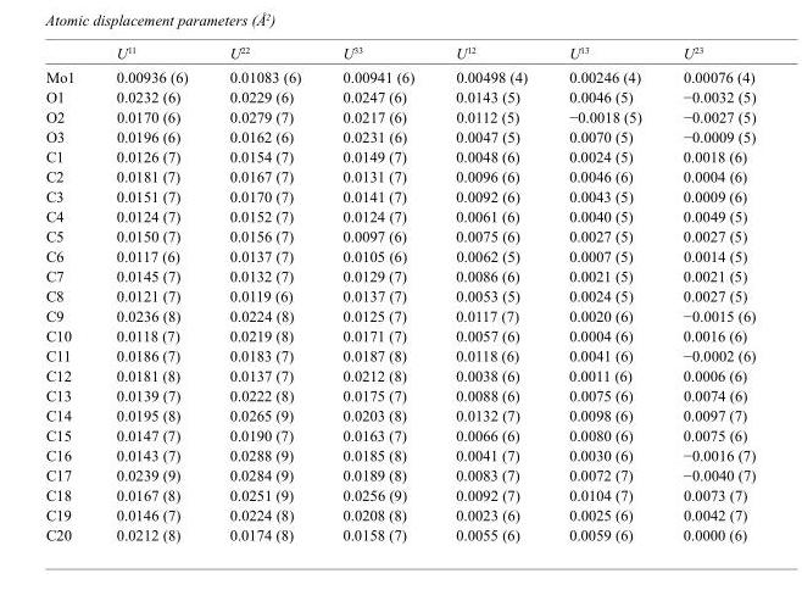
<table><thead><tr><td></td><td>U<sup>11</sup></td><td>U<sup>22</sup></td><td>U<sup>33</sup></td><td>U<sup>12</sup></td><td>U<sup>13</sup></td><td>U<sup>23</sup></td></tr></thead><tbody><tr><td>Mo1</td><td>0.00936 (6)</td><td>0.01083 (6)</td><td>0.00941 (6)</td><td>0.00498 (4)</td><td>0.00246 (4)</td><td>0.00076 (4)</td></tr><tr><td>O1</td><td>0.0232 (6)</td><td>0.0229 (6)</td><td>0.0247 (6)</td><td>0.0143 (5)</td><td>0.0046 (5)</td><td>−0.0032 (5)</td></tr><tr><td>O2</td><td>0.0170 (6)</td><td>0.0279 (7)</td><td>0.0217 (6)</td><td>0.0112 (5)</td><td>−0.0018 (5)</td><td>−0.0027 (5)</td></tr><tr><td>O3</td><td>0.0196 (6)</td><td>0.0162 (6)</td><td>0.0231 (6)</td><td>0.0047 (5)</td><td>0.0070 (5)</td><td>−0.0009 (5)</td></tr><tr><td>C1</td><td>0.0126 (7)</td><td>0.0154 (7)</td><td>0.0149 (7)</td><td>0.0048 (6)</td><td>0.0024 (5)</td><td>0.0018 (6)</td></tr><tr><td>C2</td><td>0.0181 (7)</td><td>0.0167 (7)</td><td>0.0131 (7)</td><td>0.0096 (6)</td><td>0.0046 (6)</td><td>0.0004 (6)</td></tr><tr><td>C3</td><td>0.0151 (7)</td><td>0.0170 (7)</td><td>0.0141 (7)</td><td>0.0092 (6)</td><td>0.0043 (5)</td><td>0.0009 (6)</td></tr><tr><td>C4</td><td>0.0124 (7)</td><td>0.0152 (7)</td><td>0.0124 (7)</td><td>0.0061 (6)</td><td>0.0040 (5)</td><td>0.0049 (5)</td></tr><tr><td>C5</td><td>0.0150 (7)</td><td>0.0156 (7)</td><td>0.0097 (6)</td><td>0.0075 (6)</td><td>0.0027 (5)</td><td>0.0027 (5)</td></tr><tr><td>C6</td><td>0.0117 (6)</td><td>0.0137 (7)</td><td>0.0105 (6)</td><td>0.0062 (5)</td><td>0.0007 (5)</td><td>0.0014 (5)</td></tr><tr><td>C7</td><td>0.0145 (7)</td><td>0.0132 (7)</td><td>0.0129 (7)</td><td>0.0086 (6)</td><td>0.0021 (5)</td><td>0.0021 (5)</td></tr><tr><td>C8</td><td>0.0121 (7)</td><td>0.0119 (6)</td><td>0.0137 (7)</td><td>0.0053 (5)</td><td>0.0024 (5)</td><td>0.0027 (5)</td></tr><tr><td>C9</td><td>0.0236 (8)</td><td>0.0224 (8)</td><td>0.0125 (7)</td><td>0.0117 (7)</td><td>0.0020 (6)</td><td>−0.0015 (6)</td></tr><tr><td>C10</td><td>0.0118 (7)</td><td>0.0219 (8)</td><td>0.0171 (7)</td><td>0.0057 (6)</td><td>0.0004 (6)</td><td>0.0016 (6)</td></tr><tr><td>C11</td><td>0.0186 (7)</td><td>0.0183 (7)</td><td>0.0187 (8)</td><td>0.0118 (6)</td><td>0.0041 (6)</td><td>−0.0002 (6)</td></tr><tr><td>C12</td><td>0.0181 (8)</td><td>0.0137 (7)</td><td>0.0212 (8)</td><td>0.0038 (6)</td><td>0.0011 (6)</td><td>0.0006 (6)</td></tr><tr><td>C13</td><td>0.0139 (7)</td><td>0.0222 (8)</td><td>0.0175 (7)</td><td>0.0088 (6)</td><td>0.0075 (6)</td><td>0.0074 (6)</td></tr><tr><td>C14</td><td>0.0195 (8)</td><td>0.0265 (9)</td><td>0.0203 (8)</td><td>0.0132 (7)</td><td>0.0098 (6)</td><td>0.0097 (7)</td></tr><tr><td>C15</td><td>0.0147 (7)</td><td>0.0190 (7)</td><td>0.0163 (7)</td><td>0.0066 (6)</td><td>0.0080 (6)</td><td>0.0075 (6)</td></tr><tr><td>C16</td><td>0.0143 (7)</td><td>0.0288 (9)</td><td>0.0185 (8)</td><td>0.0041 (7)</td><td>0.0030 (6)</td><td>−0.0016 (7)</td></tr><tr><td>C17</td><td>0.0239 (9)</td><td>0.0284 (9)</td><td>0.0189 (8)</td><td>0.0083 (7)</td><td>0.0072 (7)</td><td>−0.0040 (7)</td></tr><tr><td>C18</td><td>0.0167 (8)</td><td>0.0251 (9)</td><td>0.0256 (9)</td><td>0.0092 (7)</td><td>0.0104 (7)</td><td>0.0073 (7)</td></tr><tr><td>C19</td><td>0.0146 (7)</td><td>0.0224 (8)</td><td>0.0208 (8)</td><td>0.0023 (6)</td><td>0.0025 (6)</td><td>0.0042 (7)</td></tr><tr><td>C20</td><td>0.0212 (8)</td><td>0.0174 (8)</td><td>0.0158 (7)</td><td>0.0055 (6)</td><td>0.0059 (6)</td><td>0.0000 (6)</td></tr></tbody></table>